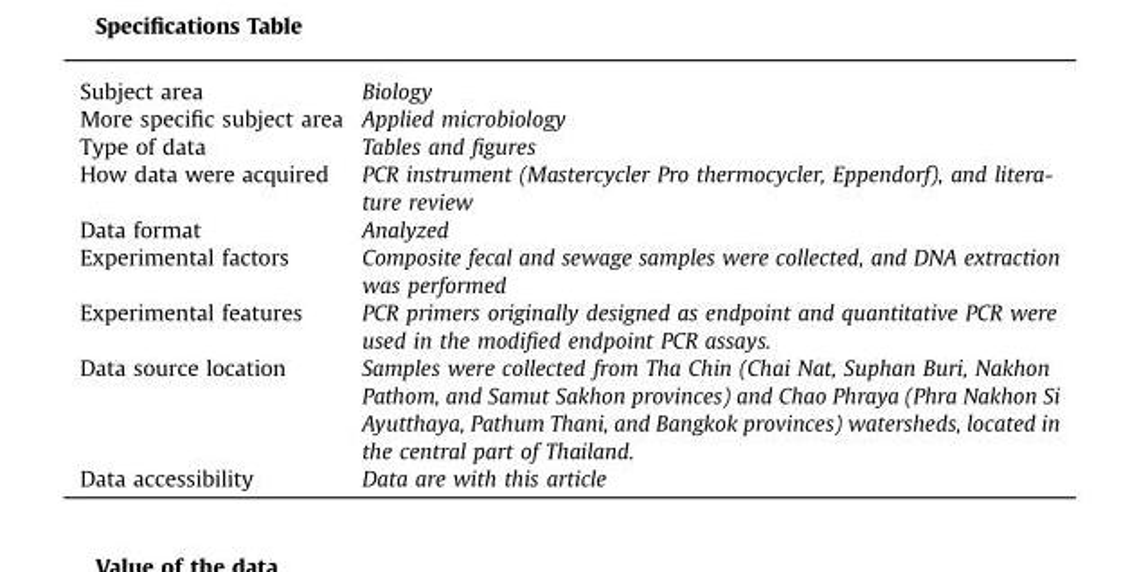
<table><tbody><tr><td>Subject area</td><td>Biology</td></tr><tr><td>More specific subject area</td><td>Applied microbiology</td></tr><tr><td>Type of data</td><td>Tables and figures</td></tr><tr><td>How data were acquired</td><td>PCR instrument (Mastercycler Pro thermocycler, Eppendorf), and litera- ture review</td></tr><tr><td>Data format</td><td>Analyzed</td></tr><tr><td>Experimental factors</td><td>Composite fecal and sewage samples were collected, and DNA extraction was performed</td></tr><tr><td>Experimental features</td><td>PCR primers originally designed as endpoint and quantitative PCR were used in the modified endpoint PCR assays.</td></tr><tr><td>Data source location</td><td>Samples were collected from Tha Chin (Chai Nat, Suphan Buri, Nakhon Pathom, and Samut Sakhon provinces) and Chao Phraya (Phra Nakhon Si Ayutthaya, Pathum Thani, and Bangkok provinces) watersheds, located in the central part of Thailand.</td></tr><tr><td>Data accessibility</td><td>Data are with this article</td></tr></tbody></table>